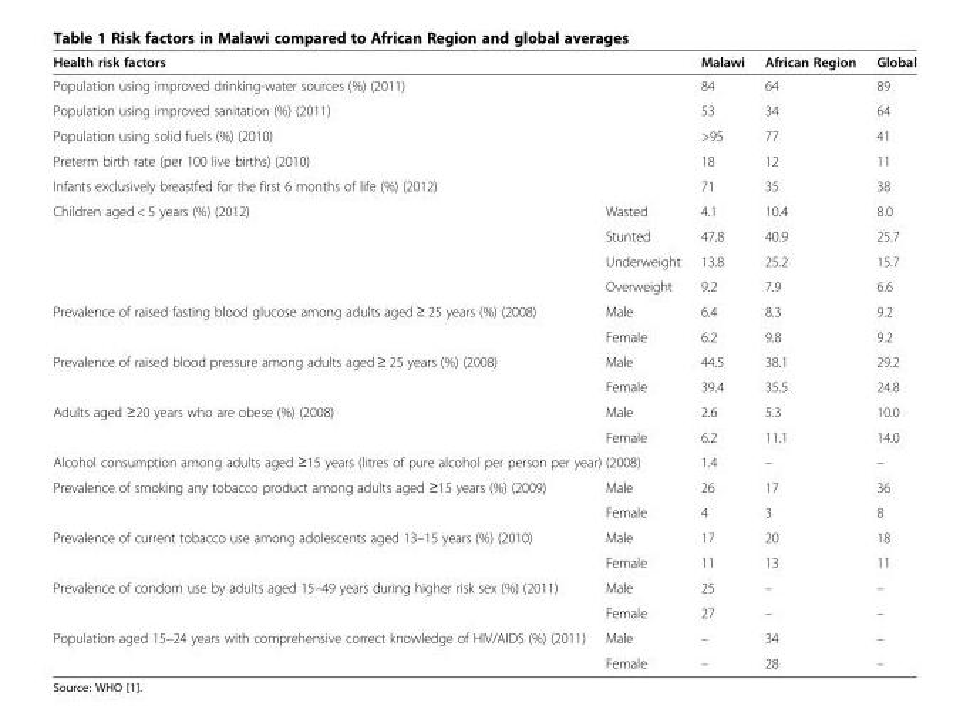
<table><thead><tr><td colspan="2">Health risk factors</td><td>Malawi</td><td>African Region</td><td>Global</td></tr></thead><tbody><tr><td colspan="2">Population using improved drinking-water sources (%) (2011)</td><td>84</td><td>64</td><td>89</td></tr><tr><td colspan="2">Population using improved sanitation (%) (2011)</td><td>53</td><td>34</td><td>64</td></tr><tr><td colspan="2">Population using solid fuels (%) (2010)</td><td>&gt;95</td><td>77</td><td>41</td></tr><tr><td colspan="2">Preterm birth rate (per 100 live births) (2010)</td><td>18</td><td>12</td><td>11</td></tr><tr><td colspan="2">Infants exclusively breastfed for the first 6 months of life (%) (2012)</td><td>71</td><td>35</td><td>38</td></tr><tr><td rowspan="4">Children aged &lt; 5 years (%) (2012)</td><td>Wasted</td><td>4.1</td><td>10.4</td><td>8.0</td></tr><tr><td>Stunted</td><td>47.8</td><td>40.9</td><td>25.7</td></tr><tr><td>Underweight</td><td>13.8</td><td>25.2</td><td>15.7</td></tr><tr><td>Overweight</td><td>9.2</td><td>7.9</td><td>6.6</td></tr><tr><td rowspan="2">Prevalence of raised fasting blood glucose among adults aged ≥ 25 years (%) (2008)</td><td>Male</td><td>6.4</td><td>8.3</td><td>9.2</td></tr><tr><td>Female</td><td>6.2</td><td>9.8</td><td>9.2</td></tr><tr><td rowspan="2">Prevalence of raised blood pressure among adults aged ≥ 25 years (%) (2008)</td><td>Male</td><td>44.5</td><td>38.1</td><td>29.2</td></tr><tr><td>Female</td><td>39.4</td><td>35.5</td><td>24.8</td></tr><tr><td rowspan="2">Adults aged ≥20 years who are obese (%) (2008)</td><td>Male</td><td>2.6</td><td>5.3</td><td>10.0</td></tr><tr><td>Female</td><td>6.2</td><td>11.1</td><td>14.0</td></tr><tr><td colspan="2">Alcohol consumption among adults aged ≥15 years (litres of pure alcohol per person per year) (2008)</td><td>1.4</td><td>–</td><td>–</td></tr><tr><td rowspan="2">Prevalence of smoking any tobacco product among adults aged ≥15 years (%) (2009)</td><td>Male</td><td>26</td><td>17</td><td>36</td></tr><tr><td>Female</td><td>4</td><td>3</td><td>8</td></tr><tr><td rowspan="2">Prevalence of current tobacco use among adolescents aged 13–15 years (%) (2010)</td><td>Male</td><td>17</td><td>20</td><td>18</td></tr><tr><td>Female</td><td>11</td><td>13</td><td>11</td></tr><tr><td rowspan="2">Prevalence of condom use by adults aged 15–49 years during higher risk sex (%) (2011)</td><td>Male</td><td>25</td><td>–</td><td>–</td></tr><tr><td>Female</td><td>27</td><td>–</td><td>–</td></tr><tr><td rowspan="2">Population aged 15–24 years with comprehensive correct knowledge of HIV/AIDS (%) (2011)</td><td>Male</td><td>–</td><td>34</td><td>–</td></tr><tr><td>Female</td><td>–</td><td>28</td><td>–</td></tr></tbody></table>